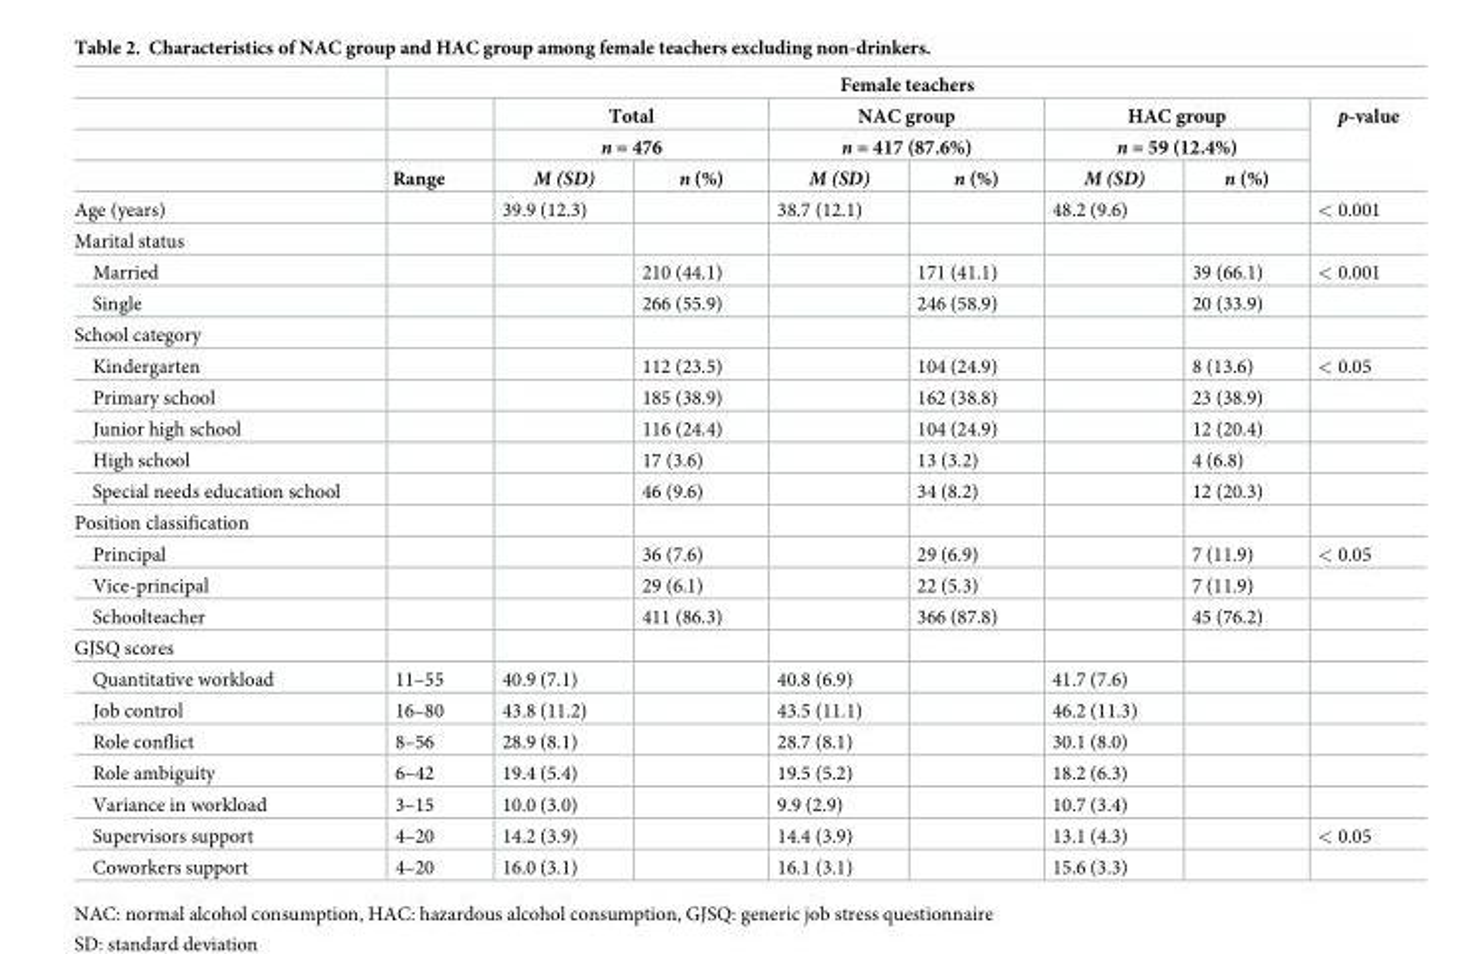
<table><thead><tr><td rowspan="4"></td><td colspan="8">Female teachers</td></tr><tr><td rowspan="3">Range</td><td rowspan="2" colspan="2">Total n = 476</td><td rowspan="2" colspan="2">NAC group n = 417 (87.6%)</td><td rowspan="2" colspan="2">HAC group n = 59 (12.4%)</td><td rowspan="3">p-value</td></tr><tr></tr><tr><td>M (SD)</td><td>n (%)</td><td>M (SD)</td><td>n (%)</td><td>M (SD)</td><td>n (%)</td></tr></thead><tbody><tr><td>Age (years)</td><td></td><td>39.9 (12.3)</td><td></td><td>38.7 (12.1)</td><td></td><td>48.2 (9.6)</td><td></td><td>&lt; 0.001</td></tr><tr><td colspan="9">Marital status</td></tr><tr><td>Married</td><td></td><td></td><td>210 (44.1)</td><td></td><td>171 (41.1)</td><td></td><td>39 (66.1)</td><td>&lt; 0.001</td></tr><tr><td>Single</td><td></td><td></td><td>266 (55.9)</td><td></td><td>246 (58.9)</td><td></td><td>20 (33.9)</td><td></td></tr><tr><td colspan="9">School category</td></tr><tr><td>Kindergarten</td><td></td><td></td><td>112 (23.5)</td><td></td><td>104 (24.9)</td><td></td><td>8 (13.6)</td><td>&lt; 0.05</td></tr><tr><td>Primary school</td><td></td><td></td><td>185 (38.9)</td><td></td><td>162 (38.8)</td><td></td><td>23 (38.9)</td><td></td></tr><tr><td>Junior high school</td><td></td><td></td><td>116 (24.4)</td><td></td><td>104 (24.9)</td><td></td><td>12 (20.4)</td><td></td></tr><tr><td>High school</td><td></td><td></td><td>17 (3.6)</td><td></td><td>13 (3.2)</td><td></td><td>4 (6.8)</td><td></td></tr><tr><td>Special needs education school</td><td></td><td></td><td>46 (9.6)</td><td></td><td>34 (8.2)</td><td></td><td>12 (20.3)</td><td></td></tr><tr><td colspan="9">Position classification</td></tr><tr><td>Principal</td><td></td><td></td><td>36 (7.6)</td><td></td><td>29 (6.9)</td><td></td><td>7 (11.9)</td><td>&lt; 0.05</td></tr><tr><td>Vice-principal</td><td></td><td></td><td>29 (6.1)</td><td></td><td>22 (5.3)</td><td></td><td>7 (11.9)</td><td></td></tr><tr><td>Schoolteacher</td><td></td><td></td><td>411 (86.3)</td><td></td><td>366 (87.8)</td><td></td><td>45 (76.2)</td><td></td></tr><tr><td colspan="9">GJSQ scores</td></tr><tr><td>Quantitative workload</td><td>11–55</td><td>40.9 (7.1)</td><td></td><td>40.8 (6.9)</td><td></td><td>41.7 (7.6)</td><td></td><td></td></tr><tr><td>Job control</td><td>16–80</td><td>43.8 (11.2)</td><td></td><td>43.5 (11.1)</td><td></td><td>46.2 (11.3)</td><td></td><td></td></tr><tr><td>Role conflict</td><td>8–56</td><td>28.9 (8.1)</td><td></td><td>28.7 (8.1)</td><td></td><td>30.1 (8.0)</td><td></td><td></td></tr><tr><td>Role ambiguity</td><td>6–42</td><td>19.4 (5.4)</td><td></td><td>19.5 (5.2)</td><td></td><td>18.2 (6.3)</td><td></td><td></td></tr><tr><td>Variance in workload</td><td>3–15</td><td>10.0 (3.0)</td><td></td><td>9.9 (2.9)</td><td></td><td>10.7 (3.4)</td><td></td><td></td></tr><tr><td>Supervisors support</td><td>4–20</td><td>14.2 (3.9)</td><td></td><td>14.4 (3.9)</td><td></td><td>13.1 (4.3)</td><td></td><td>&lt; 0.05</td></tr><tr><td>Coworkers support</td><td>4–20</td><td>16.0 (3.1)</td><td></td><td>16.1 (3.1)</td><td></td><td>15.6 (3.3)</td><td></td><td></td></tr></tbody></table>